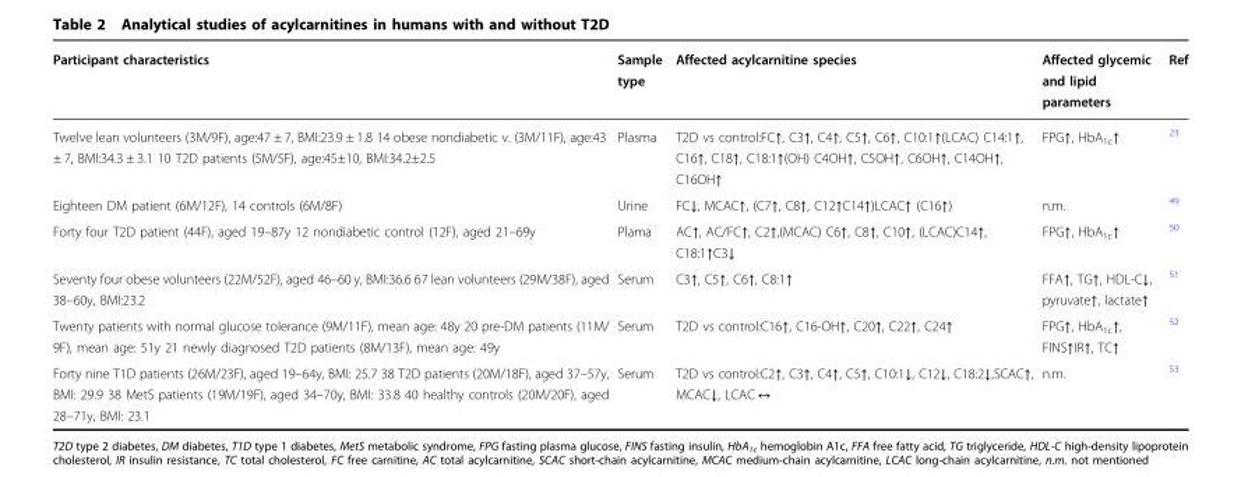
<table><thead><tr><td>Participant characteristics</td><td>Sample type</td><td>Affected acylcarnitine species</td><td>Affected glycemic and lipid parameters</td><td>Ref</td></tr></thead><tbody><tr><td>Twelve lean volunteers (3M/9F), age:47 ± 7, BMI:23.9 ± 1.8 14 obese nondiabetic v. (3M/11F), age:43 ± 7, BMI:34.3 ± 3.1 10 T2D patients (5M/5F), age:45±10, BMI:34.2±2.5</td><td>Plasma</td><td>T2D vs control:FC↑, C3↑, C4↑, C5↑, C6↑, C10:1↑(LCAC) C14:1↑, C16↑, C18↑, C18:1↑(OH) C4OH↑, C5OH↑, C6OH↑, C14OH↑, C16OH↑</td><td>FPG↑, HbA<sub>1c</sub>↑</td><td><sup>23</sup></td></tr><tr><td>Eighteen DM patient (6M/12F), 14 controls (6M/8F)</td><td>Urine</td><td>FC↓, MCAC↑, (C7↑, C8↑, C12↑C14↑)LCAC↑ (C16↑)</td><td>n.m.</td><td><sup>49</sup></td></tr><tr><td>Forty four T2D patient (44F), aged 19–87y 12 nondiabetic control (12F), aged 21–69y</td><td>Plama</td><td>AC↑, AC/FC↑, C2↑,(MCAC) C6↑, C8↑, C10↑, (LCAC)C14↑, C18:1↑C3↓</td><td>FPG↑, HbA<sub>1c</sub>↑</td><td><sup>50</sup></td></tr><tr><td>Seventy four obese volunteers (22M/52F), aged 46–60 y, BMI:36.6 67 lean volunteers (29M/38F), aged 38–60y, BMI:23.2</td><td>Serum</td><td>C3↑, C5↑, C6↑, C8:1↑</td><td>FFA↑, TG↑, HDL-C↓, pyruvate↑, lactate↑</td><td><sup>51</sup></td></tr><tr><td>Twenty patients with normal glucose tolerance (9M/11F), mean age: 48y 20 pre-DM patients (11M/ 9F), mean age: 51y 21 newly diagnosed T2D patients (8M/13F), mean age: 49y</td><td>Serum</td><td>T2D vs control:C16↑, C16-OH↑, C20↑, C22↑, C24↑</td><td>FPG↑, HbA<sub>1c</sub>↑, FINS↑IR↑, TC↑</td><td><sup>52</sup></td></tr><tr><td>Forty nine T1D patients (26M/23F), aged 19–64y, BMI: 25.7 38 T2D patients (20M/18F), aged 37–57y, BMI: 29.9 38 MetS patients (19M/19F), aged 34–70y, BMI: 33.8 40 healthy controls (20M/20F), aged 28–71y, BMI: 23.1</td><td>Serum</td><td>T2D vs control:C2↑, C3↑, C4↑, C5↑, C10:1↓, C12↓, C18:2↓,SCAC↑, MCAC↓, LCAC ↔</td><td>n.m.</td><td><sup>53</sup></td></tr></tbody></table>